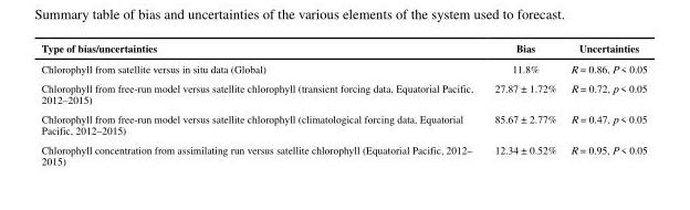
<table><thead><tr><td>Type of bias/uncertainties</td><td>Bias</td><td>Uncertainties</td></tr></thead><tbody><tr><td>Chlorophyll from satellite versus in situ data (Global)</td><td>11.8%</td><td>R = 0.86, P &lt; 0.05</td></tr><tr><td>Chlorophyll from free-run model versus satellite chlorophyll (transient forcing data, Equatorial Pacific, 2012–2015)</td><td>27.87 ± 1.72%</td><td>R = 0.72, p &lt; 0.05</td></tr><tr><td>Chlorophyll from free-run model versus satellite chlorophyll (climatological forcing data, Equatorial Pacific, 2012–2015)</td><td>85.67 ± 2.77%</td><td>R = 0.47, p &lt; 0.05</td></tr><tr><td>Chlorophyll concentration from assimilating run versus satellite chlorophyll (Equatorial Pacific, 2012– 2015)</td><td>12.34 ± 0.52%</td><td>R = 0.95, P &lt; 0.05</td></tr></tbody></table>